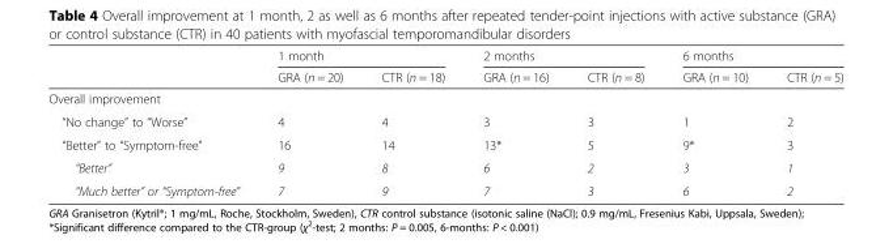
<table><thead><tr><td rowspan="2"></td><td colspan="2">1 month</td><td colspan="2">2 months</td><td colspan="2">6 months</td></tr><tr><td>GRA (n = 20)</td><td>CTR (n = 18)</td><td>GRA (n = 16)</td><td>CTR (n = 8)</td><td>GRA (n = 10)</td><td>CTR (n = 5)</td></tr></thead><tbody><tr><td colspan="7">Overall improvement</td></tr><tr><td>“No change” to “Worse”</td><td>4</td><td>4</td><td>3</td><td>3</td><td>1</td><td>2</td></tr><tr><td>“Better” to “Symptom-free”</td><td>16</td><td>14</td><td>13*</td><td>5</td><td>9*</td><td>3</td></tr><tr><td>“Better”</td><td>9</td><td>8</td><td>6</td><td>2</td><td>3</td><td>1</td></tr><tr><td>“Much better” or “Symptom-free”</td><td>7</td><td>9</td><td>7</td><td>3</td><td>6</td><td>2</td></tr></tbody></table>